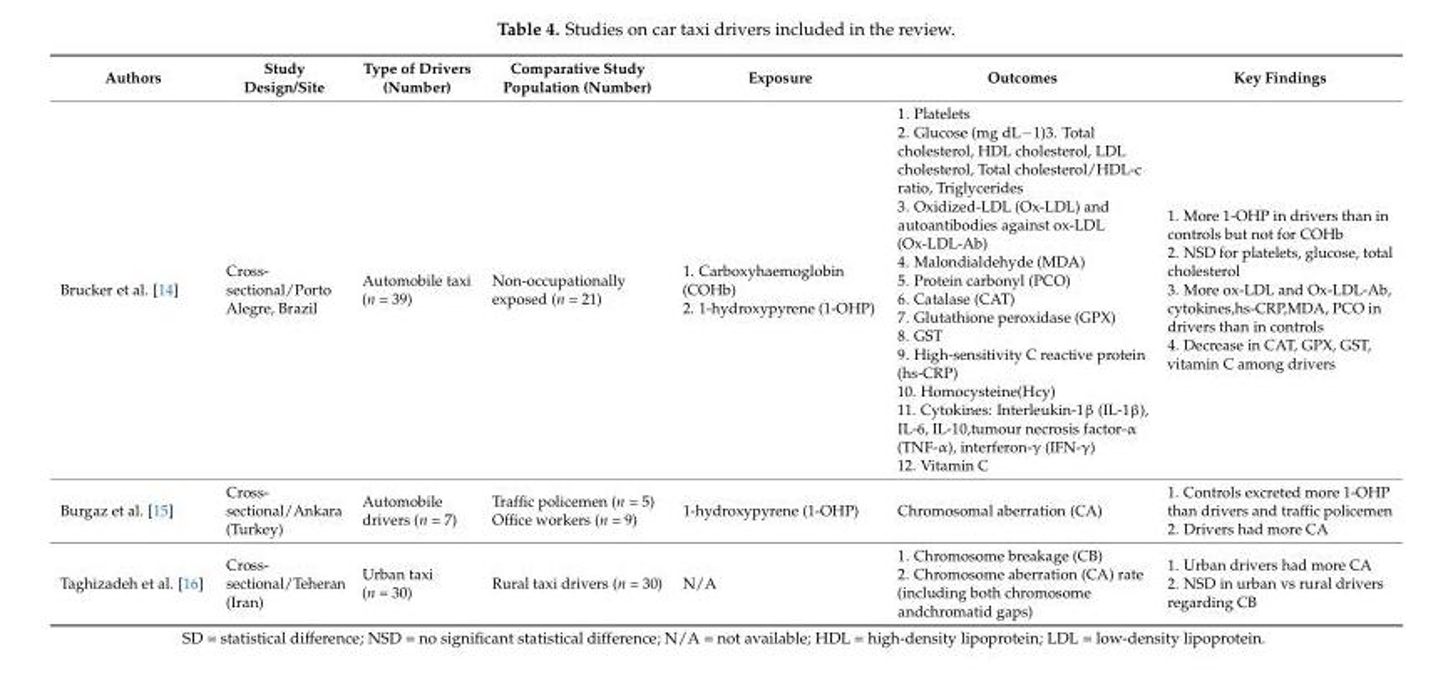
<table><thead><tr><td>Authors</td><td>Study Design/Site</td><td>Type of Drivers (Number)</td><td>Comparative Study Population (Number)</td><td>Exposure</td><td>Outcomes</td><td>Key Findings</td></tr></thead><tbody><tr><td>Brucker et al. [14]</td><td>Cross- sectional/Porto Alegre, Brazil</td><td>Automobile taxi (n = 39)</td><td>Non-occupationally exposed (n = 21)</td><td>1. Carboxyhaemoglobin (COHb) 2. 1-hydroxypyrene (1-OHP)</td><td>1. Platelets 2. Glucose (mg dL−1)3. Total cholesterol, HDL cholesterol, LDL cholesterol, Total cholesterol/HDL-c ratio, Triglycerides 3. Oxidized-LDL (Ox-LDL) and autoantibodies against ox-LDL (Ox-LDL-Ab) 4. Malondialdehyde (MDA) 5. Protein carbonyl (PCO) 6. Catalase (CAT) 7. Glutathione peroxidase (GPX) 8. GST 9. High-sensitivity C reactive protein (hs-CRP) 10. Homocysteine(Hcy) 11. Cytokines: Interleukin-1β (IL-1β), IL-6, IL-10,tumour necrosis factor-α (TNF-α), interferon-γ (IFN-γ) 12. Vitamin C</td><td>1. More 1-OHP in drivers than in controls but not for COHb 2. NSD for platelets, glucose, total cholesterol 3. More ox-LDL and Ox-LDL-Ab, cytokines,hs-CRP,MDA, PCO in drivers than in controls 4. Decrease in CAT, GPX, GST, vitamin C among drivers</td></tr><tr><td>Burgaz et al. [15]</td><td>Cross- sectional/Ankara (Turkey)</td><td>Automobile drivers (n = 7)</td><td>Traffic policemen (n = 5) Office workers (n = 9)</td><td>1-hydroxypyrene (1-OHP)</td><td>Chromosomal aberration (CA)</td><td>1. Controls excreted more 1-OHP than drivers and traffic policemen 2. Drivers had more CA</td></tr><tr><td>Taghizadeh et al. [16]</td><td>Cross- sectional/Teheran (Iran)</td><td>Urban taxi (n = 30)</td><td>Rural taxi drivers (n = 30)</td><td>N/A</td><td>1. Chromosome breakage (CB) 2. Chromosome aberration (CA) rate (including both chromosome andchromatid gaps)</td><td>1. Urban drivers had more CA 2. NSD in urban vs rural drivers regarding CB</td></tr></tbody></table>